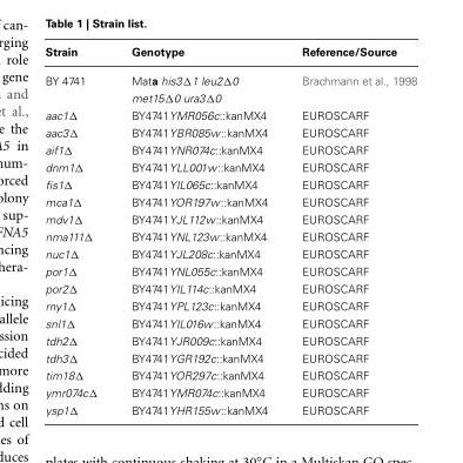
<table><thead><tr><td>Strain</td><td>Genotype</td><td>Reference/Source</td></tr></thead><tbody><tr><td rowspan="2">BY 4741</td><td>Mata his3Δ1 leu2Δ0</td><td>Brachmann et al., 1998</td></tr><tr><td>met15Δ0 ura3Δ0</td><td></td></tr><tr><td>aac1Δ</td><td>BY4741YMR056c::kanMX4</td><td>EUROSCARF</td></tr><tr><td>aac3Δ</td><td>BY4741YBR085w::kanMX4</td><td>EUROSCARF</td></tr><tr><td>aif1Δ</td><td>BY4741YNR074c::kanMX4</td><td>EUROSCARF</td></tr><tr><td>dnm1Δ</td><td>BY4741YLL001w::kanMX4</td><td>EUROSCARF</td></tr><tr><td>fis1Δ</td><td>BY4741YIL065c::kanMX4</td><td>EUROSCARF</td></tr><tr><td>mca1Δ</td><td>BY4741YOR197w::kanMX4</td><td>EUROSCARF</td></tr><tr><td>mdv1Δ</td><td>BY4741YJL112w::kanMX4</td><td>EUROSCARF</td></tr><tr><td>nma111Δ</td><td>BY4741YNL123w::kanMX4</td><td>EUROSCARF</td></tr><tr><td>nuc1Δ</td><td>BY4741YJL208c::kanMX4</td><td>EUROSCARF</td></tr><tr><td>por1Δ</td><td>BY4741YNL055c::kanMX4</td><td>EUROSCARF</td></tr><tr><td>por2Δ</td><td>BY4741YIL114c::kanMX4</td><td>EUROSCARF</td></tr><tr><td>rny1Δ</td><td>BY4741YPL123c::kanMX4</td><td>EUROSCARF</td></tr><tr><td>snl1Δ</td><td>BY4741YIL016w::kanMX4</td><td>EUROSCARF</td></tr><tr><td>tdh2Δ</td><td>BY4741YJR009c::kanMX4</td><td>EUROSCARF</td></tr><tr><td>tdh3Δ</td><td>BY4741YGR192c::kanMX4</td><td>EUROSCARF</td></tr><tr><td>tim18Δ</td><td>BY4741YOR297c::kanMX4</td><td>EUROSCARF</td></tr><tr><td>ymr074cΔ</td><td>BY4741YMR074c::kanMX4</td><td>EUROSCARF</td></tr><tr><td>ysp1Δ</td><td>BY4741YHR155w::kanMX4</td><td>EUROSCARF</td></tr></tbody></table>